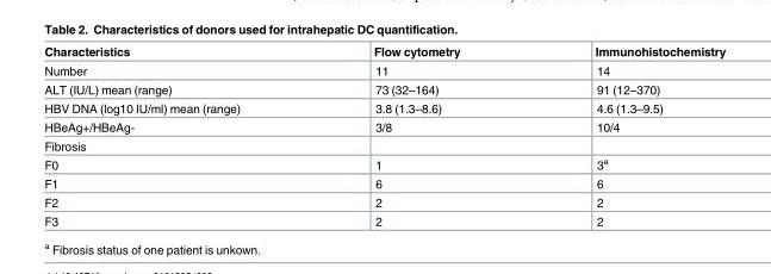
<table><thead><tr><td>Characteristics</td><td>Flow cytometry</td><td>Immunohistochemistry</td></tr></thead><tbody><tr><td>Number</td><td>11</td><td>14</td></tr><tr><td>ALT (IU/L) mean (range)</td><td>73 (32–164)</td><td>91 (12–370)</td></tr><tr><td>HBV DNA (log10 IU/ml) mean (range)</td><td>3.8 (1.3–8.6)</td><td>4.6 (1.3–9.5)</td></tr><tr><td>HBeAg+/HBeAg-</td><td>3/8</td><td>10/4</td></tr><tr><td colspan="3">Fibrosis</td></tr><tr><td>F0</td><td>1</td><td>3<sup>a</sup></td></tr><tr><td>F1</td><td>6</td><td>6</td></tr><tr><td>F2</td><td>2</td><td>2</td></tr><tr><td>F3</td><td>2</td><td>2</td></tr></tbody></table>